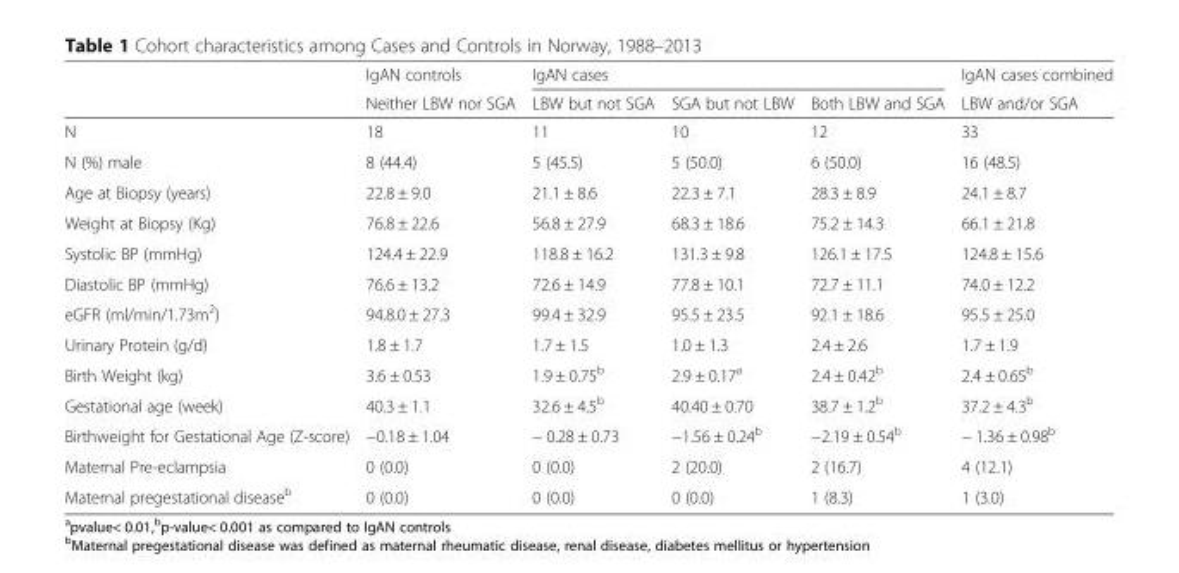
<table><thead><tr><td rowspan="2"></td><td rowspan="2">IgAN controls Neither LBW nor SGA</td><td colspan="3">IgAN cases</td><td rowspan="2">IgAN cases combined LBW and/or SGA</td></tr><tr><td>LBW but not SGA</td><td>SGA but not LBW</td><td>Both LBW and SGA</td></tr></thead><tbody><tr><td>N</td><td>18</td><td>11</td><td>10</td><td>12</td><td>33</td></tr><tr><td>N (%) male</td><td>8 (44.4)</td><td>5 (45.5)</td><td>5 (50.0)</td><td>6 (50.0)</td><td>16 (48.5)</td></tr><tr><td>Age at Biopsy (years)</td><td>22.8 ± 9.0</td><td>21.1 ± 8.6</td><td>22.3 ± 7.1</td><td>28.3 ± 8.9</td><td>24.1 ± 8.7</td></tr><tr><td>Weight at Biopsy (Kg)</td><td>76.8 ± 22.6</td><td>56.8 ± 27.9</td><td>68.3 ± 18.6</td><td>75.2 ± 14.3</td><td>66.1 ± 21.8</td></tr><tr><td>Systolic BP (mmHg)</td><td>124.4 ± 22.9</td><td>118.8 ± 16.2</td><td>131.3 ± 9.8</td><td>126.1 ± 17.5</td><td>124.8 ± 15.6</td></tr><tr><td>Diastolic BP (mmHg)</td><td>76.6 ± 13.2</td><td>72.6 ± 14.9</td><td>77.8 ± 10.1</td><td>72.7 ± 11.1</td><td>74.0 ± 12.2</td></tr><tr><td>eGFR (ml/min/1.73m<sup>2</sup>)</td><td>94.8.0 ± 27.3</td><td>99.4 ± 32.9</td><td>95.5 ± 23.5</td><td>92.1 ± 18.6</td><td>95.5 ± 25.0</td></tr><tr><td>Urinary Protein (g/d)</td><td>1.8 ± 1.7</td><td>1.7 ± 1.5</td><td>1.0 ± 1.3</td><td>2.4 ± 2.6</td><td>1.7 ± 1.9</td></tr><tr><td>Birth Weight (kg)</td><td>3.6 ± 0.53</td><td>1.9 ± 0.75<sup>b</sup></td><td>2.9 ± 0.17<sup>a</sup></td><td>2.4 ± 0.42<sup>b</sup></td><td>2.4 ± 0.65<sup>b</sup></td></tr><tr><td>Gestational age (week)</td><td>40.3 ± 1.1</td><td>32.6 ± 4.5<sup>b</sup></td><td>40.40 ± 0.70</td><td>38.7 ± 1.2<sup>b</sup></td><td>37.2 ± 4.3<sup>b</sup></td></tr><tr><td>Birthweight for Gestational Age (Z-score)</td><td>−0.18 ± 1.04</td><td>− 0.28 ± 0.73</td><td>−1.56 ± 0.24<sup>b</sup></td><td>−2.19 ± 0.54<sup>b</sup></td><td>− 1.36 ± 0.98<sup>b</sup></td></tr><tr><td>Maternal Pre-eclampsia</td><td>0 (0.0)</td><td>0 (0.0)</td><td>2 (20.0)</td><td>2 (16.7)</td><td>4 (12.1)</td></tr><tr><td>Maternal pregestational disease<sup>b</sup></td><td>0 (0.0)</td><td>0 (0.0)</td><td>0 (0.0)</td><td>1 (8.3)</td><td>1 (3.0)</td></tr></tbody></table>